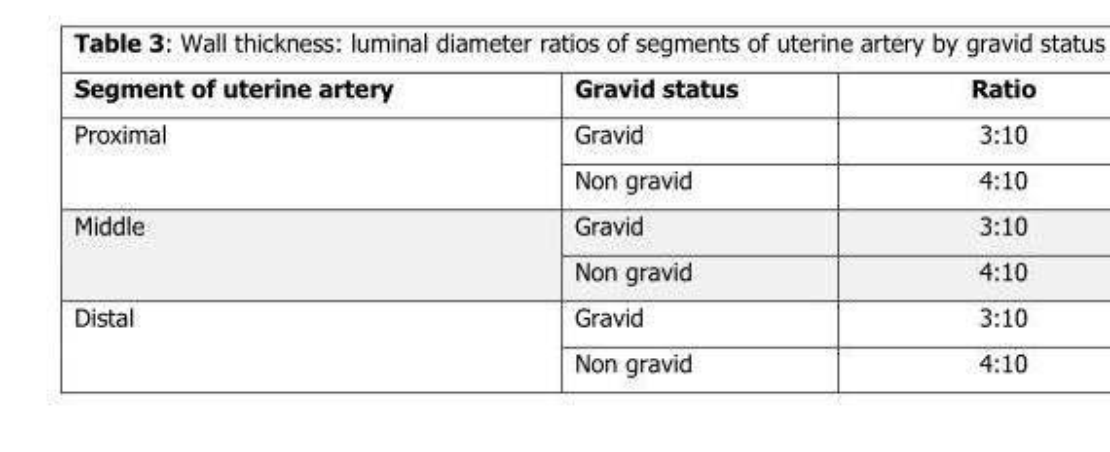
<table><thead><tr><td>Segment of uterine artery</td><td>Gravid status</td><td>Ratio</td></tr></thead><tbody><tr><td rowspan="2">Proximal</td><td>Gravid</td><td>3:10</td></tr><tr><td>Non gravid</td><td>4:10</td></tr><tr><td rowspan="2">Middle</td><td>Gravid</td><td>3:10</td></tr><tr><td>Non gravid</td><td>4:10</td></tr><tr><td rowspan="2">Distal</td><td>Gravid</td><td>3:10</td></tr><tr><td>Non gravid</td><td>4:10</td></tr></tbody></table>